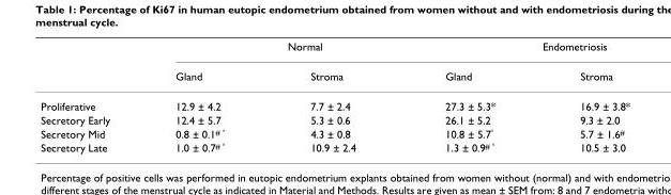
<table><thead><tr><td rowspan="2"></td><td colspan="2">Normal</td><td colspan="2">Endometriosis</td></tr><tr><td>Gland</td><td>Stroma</td><td>Gland</td><td>Stroma</td></tr></thead><tbody><tr><td>Proliferative</td><td>12.9 ± 4.2</td><td>7.7 ± 2.4</td><td>27.3 ± 5.3*</td><td>16.9 ± 3.8*</td></tr><tr><td>Secretory Early</td><td>12.4 ± 5.7</td><td>5.3 ± 0.6</td><td>26.1 ± 5.2</td><td>9.3 ± 2.0</td></tr><tr><td>Secretory Mid</td><td>0.8 ± 0.1<sup># °</sup></td><td>4.3 ± 0.8</td><td>10.8 ± 5.7<sup>°</sup></td><td>5.7 ± 1.6<sup>#</sup></td></tr><tr><td>Secretory Late</td><td>1.0 ± 0.7<sup># °</sup></td><td>10.9 ± 2.4</td><td>1.3 ± 0.9<sup># °</sup></td><td>10.5 ± 3.0</td></tr></tbody></table>